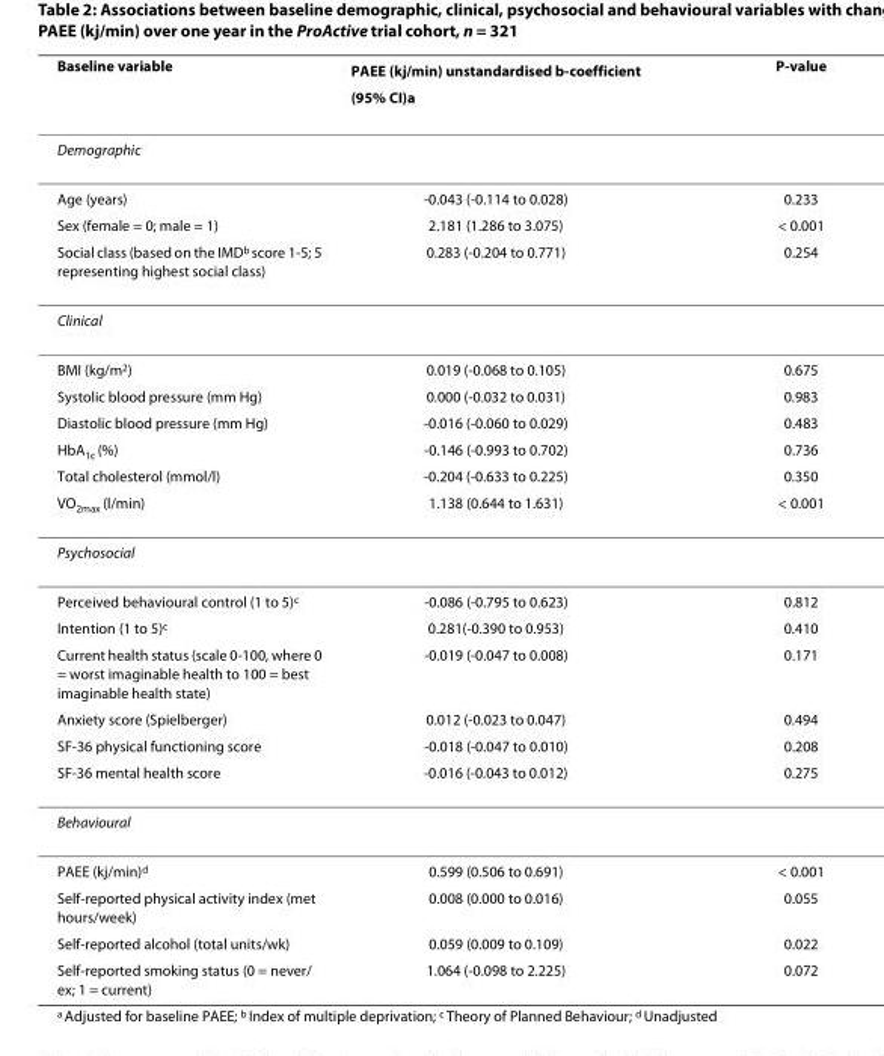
<table><thead><tr><td>Baseline variable</td><td>PAEE (kj/min) unstandardised b-coefficient (95% CI)<sup>a</sup></td><td>P-value</td></tr></thead><tbody><tr><td colspan="3">Demographic</td></tr><tr><td>Age (years)</td><td>-0.043 (-0.114 to 0.028)</td><td>0.233</td></tr><tr><td>Sex (female = 0; male = 1)</td><td>2.181 (1.286 to 3.075)</td><td>&lt; 0.001</td></tr><tr><td>Social class (based on the IMD<sup>b</sup> score 1-5; 5 representing highest social class)</td><td>0.283 (-0.204 to 0.771)</td><td>0.254</td></tr><tr><td colspan="3">Clinical</td></tr><tr><td>BMI (kg/m<sup>2</sup>)</td><td>0.019 (-0.068 to 0.105)</td><td>0.675</td></tr><tr><td>Systolic blood pressure (mm Hg)</td><td>0.000 (-0.032 to 0.031)</td><td>0.983</td></tr><tr><td>Diastolic blood pressure (mm Hg)</td><td>-0.016 (-0.060 to 0.029)</td><td>0.483</td></tr><tr><td>HbA<sub>1c</sub> (%)</td><td>-0.146 (-0.993 to 0.702)</td><td>0.736</td></tr><tr><td>Total cholesterol (mmol/l)</td><td>-0.204 (-0.633 to 0.225)</td><td>0.350</td></tr><tr><td>VO<sub>2max</sub> (l/min)</td><td>1.138 (0.644 to 1.631)</td><td>&lt; 0.001</td></tr><tr><td colspan="3">Psychosocial</td></tr><tr><td>Perceived behavioural control (1 to 5)<sup>c</sup></td><td>-0.086 (-0.795 to 0.623)</td><td>0.812</td></tr><tr><td>Intention (1 to 5)<sup>c</sup></td><td>0.281(-0.390 to 0.953)</td><td>0.410</td></tr><tr><td>Current health status (scale 0-100, where 0 = worst imaginable health to 100 = best imaginable health state)</td><td>-0.019 (-0.047 to 0.008)</td><td>0.171</td></tr><tr><td>Anxiety score (Spielberger)</td><td>0.012 (-0.023 to 0.047)</td><td>0.494</td></tr><tr><td>SF-36 physical functioning score</td><td>-0.018 (-0.047 to 0.010)</td><td>0.208</td></tr><tr><td>SF-36 mental health score</td><td>-0.016 (-0.043 to 0.012)</td><td>0.275</td></tr><tr><td colspan="3">Behavioural</td></tr><tr><td>PAEE (kj/min)<sup>d</sup></td><td>0.599 (0.506 to 0.691)</td><td>&lt; 0.001</td></tr><tr><td>Self-reported physical activity index (met hours/week)</td><td>0.008 (0.000 to 0.016)</td><td>0.055</td></tr><tr><td>Self-reported alcohol (total units/wk)</td><td>0.059 (0.009 to 0.109)</td><td>0.022</td></tr><tr><td>Self-reported smoking status (0 = never/ ex; 1 = current)</td><td>1.064 (-0.098 to 2.225)</td><td>0.072</td></tr></tbody></table>